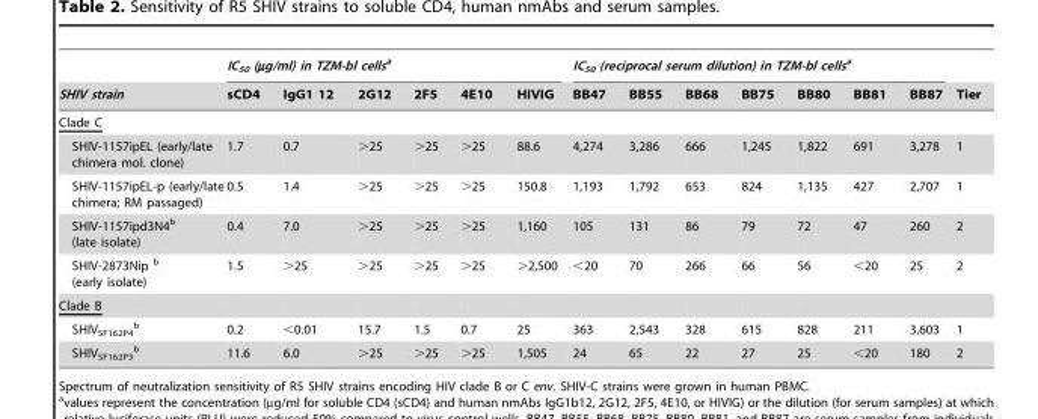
<table><thead><tr><td rowspan="2">SHIV strain</td><td colspan="6">IC<sub>50</sub> (µg/ml) in TZM-bl cells<sup>a</sup></td><td colspan="7">IC<sub>50</sub> (reciprocal serum dilution) in TZM-bl cells<sup>a</sup></td><td rowspan="2">Tier</td></tr><tr><td>sCD4</td><td>IgG1 12</td><td>2G12</td><td>2F5</td><td>4E10</td><td>HIVIG</td><td>BB47</td><td>BB55</td><td>BB68</td><td>BB75</td><td>BB80</td><td>BB81</td><td>BB87</td></tr></thead><tbody><tr><td colspan="15">Clade C</td></tr><tr><td>SHIV-1157ipEL (early/late chimera mol. clone)</td><td>1.7</td><td>0.7</td><td>&gt;25</td><td>&gt;25</td><td>&gt;25</td><td>88.6</td><td>4,274</td><td>3,286</td><td>666</td><td>1,245</td><td>1,822</td><td>691</td><td>3,278</td><td>1</td></tr><tr><td>SHIV-1157ipEL-p (early/late chimera; RM passaged)</td><td>0.5</td><td>1.4</td><td>&gt;25</td><td>&gt;25</td><td>&gt;25</td><td>150.8</td><td>1,193</td><td>1,792</td><td>653</td><td>824</td><td>1,135</td><td>427</td><td>2,707</td><td>1</td></tr><tr><td>SHIV-1157ipd3N4<sup>b</sup> (late isolate)</td><td>0.4</td><td>7.0</td><td>&gt;25</td><td>&gt;25</td><td>&gt;25</td><td>1,160</td><td>105</td><td>131</td><td>86</td><td>79</td><td>72</td><td>47</td><td>260</td><td>2</td></tr><tr><td>SHIV-2873Nip b (early isolate)</td><td>1.5</td><td>&gt;25</td><td>&gt;25</td><td>&gt;25</td><td>&gt;25</td><td>&gt;2,500</td><td>&lt;20</td><td>70</td><td>266</td><td>66</td><td>56</td><td>&lt;20</td><td>25</td><td>2</td></tr><tr><td colspan="15">Clade B</td></tr><tr><td>SHIV<sub>SF162P4</sub> b</td><td>0.2</td><td>&lt;0.01</td><td>15.7</td><td>1.5</td><td>0.7</td><td>25</td><td>363</td><td>2,543</td><td>328</td><td>615</td><td>828</td><td>211</td><td>3,603</td><td>1</td></tr><tr><td>SHIV<sub>SF162P3</sub> b</td><td>11.6</td><td>6.0</td><td>&gt;25</td><td>&gt;25</td><td>&gt;25</td><td>1,505</td><td>24</td><td>65</td><td>22</td><td>27</td><td>25</td><td>&lt;20</td><td>180</td><td>2</td></tr></tbody></table>